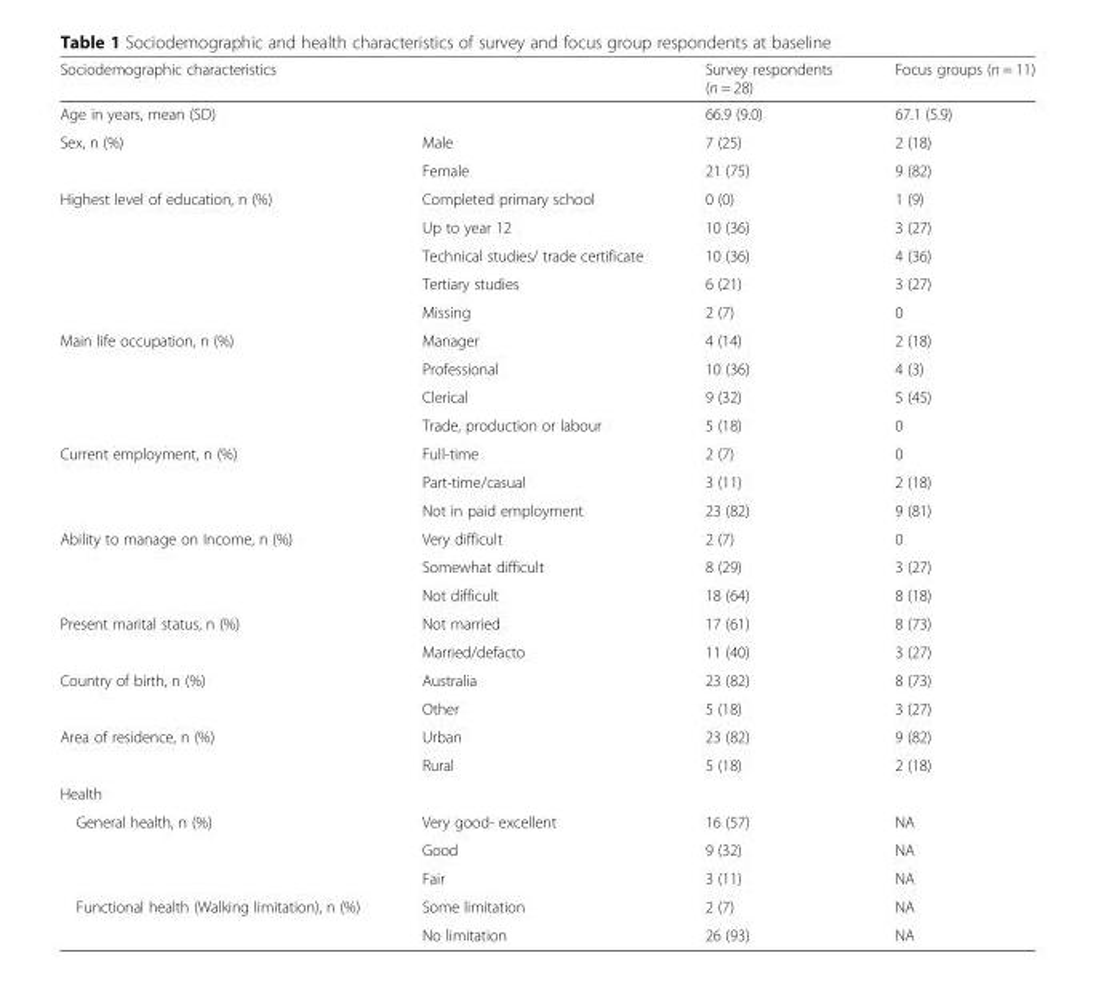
<table><thead><tr><td colspan="2">Sociodemographic characteristics</td><td rowspan="2">Survey respondents (n = 28) 66.9 (9.0)</td><td rowspan="2">Focus groups (n = 11) 67.1 (5.9)</td></tr><tr><td>Age in years, mean (SD)</td><td></td></tr></thead><tbody><tr><td rowspan="2">Sex, n (%)</td><td>Male</td><td>7 (25)</td><td>2 (18)</td></tr><tr><td>Female</td><td>21 (75)</td><td>9 (82)</td></tr><tr><td rowspan="5">Highest level of education, n (%)</td><td>Completed primary school</td><td>0 (0)</td><td>1 (9)</td></tr><tr><td>Up to year 12</td><td>10 (36)</td><td>3 (27)</td></tr><tr><td>Technical studies/ trade certificate</td><td>10 (36)</td><td>4 (36)</td></tr><tr><td>Tertiary studies</td><td>6 (21)</td><td>3 (27)</td></tr><tr><td>Missing</td><td>2 (7)</td><td>0</td></tr><tr><td rowspan="4">Main life occupation, n (%)</td><td>Manager</td><td>4 (14)</td><td>2 (18)</td></tr><tr><td>Professional</td><td>10 (36)</td><td>4 (3)</td></tr><tr><td>Clerical</td><td>9 (32)</td><td>5 (45)</td></tr><tr><td>Trade, production or labour</td><td>5 (18)</td><td>0</td></tr><tr><td rowspan="3">Current employment, n (%)</td><td>Full-time</td><td>2 (7)</td><td>0</td></tr><tr><td>Part-time/casual</td><td>3 (11)</td><td>2 (18)</td></tr><tr><td>Not in paid employment</td><td>23 (82)</td><td>9 (81)</td></tr><tr><td rowspan="3">Ability to manage on Income, n (%)</td><td>Very difficult</td><td>2 (7)</td><td>0</td></tr><tr><td>Somewhat difficult</td><td>8 (29)</td><td>3 (27)</td></tr><tr><td>Not difficult</td><td>18 (64)</td><td>8 (18)</td></tr><tr><td rowspan="2">Present marital status, n (%)</td><td>Not married</td><td>17 (61)</td><td>8 (73)</td></tr><tr><td>Married/defacto</td><td>11 (40)</td><td>3 (27)</td></tr><tr><td rowspan="2">Country of birth, n (%)</td><td>Australia</td><td>23 (82)</td><td>8 (73)</td></tr><tr><td>Other</td><td>5 (18)</td><td>3 (27)</td></tr><tr><td rowspan="2">Area of residence, n (%)</td><td>Urban</td><td>23 (82)</td><td>9 (82)</td></tr><tr><td>Rural</td><td>5 (18)</td><td>2 (18)</td></tr><tr><td colspan="4">Health</td></tr><tr><td rowspan="3">General health, n (%)</td><td>Very good- excellent</td><td>16 (57)</td><td>NA</td></tr><tr><td>Good</td><td>9 (32)</td><td>NA</td></tr><tr><td>Fair</td><td>3 (11)</td><td>NA</td></tr><tr><td rowspan="2">Functional health (Walking limitation), n (%)</td><td>Some limitation</td><td>2 (7)</td><td>NA</td></tr><tr><td>No limitation</td><td>26 (93)</td><td>NA</td></tr></tbody></table>